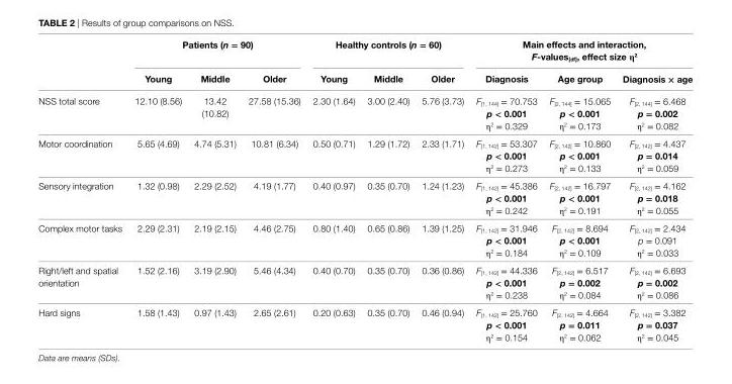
<table><thead><tr><td rowspan="2"></td><td colspan="3">Patients (n = 90)</td><td colspan="3">healthy controls (n = 60)</td><td colspan="3">Main effects and interaction, F-values<sub>[df]</sub>, effect size η<sup>2</sup></td></tr><tr><td>Young</td><td>Middle</td><td>Older</td><td>Young</td><td>Middle</td><td>Older</td><td>Diagnosis</td><td>age group</td><td>Diagnosis × age</td></tr></thead><tbody><tr><td>NSS total score</td><td>12.10 (8.56)</td><td>13.42 (10.82)</td><td>27.58 (15.36)</td><td>2.30 (1.64)</td><td>3.00 (2.40)</td><td>5.76 (3.73)</td><td>F<sub>[1, 144]</sub> = 70.753 p &lt; 0.001 η<sup>2</sup> = 0.329</td><td>F<sub>[2, 144]</sub> = 15.065 p &lt; 0.001 η<sup>2</sup> = 0.173</td><td>F<sub>[2, 144]</sub> = 6.468 p = 0.002 η<sup>2</sup> = 0.082</td></tr><tr><td>Motor coordination</td><td>5.65 (4.69)</td><td>4.74 (5.31)</td><td>10.81 (6.34)</td><td>0.50 (0.71)</td><td>1.29 (1.72)</td><td>2.33 (1.71)</td><td>F<sub>[1, 142]</sub> = 53.307 p &lt; 0.001 η<sup>2</sup> = 0.273</td><td>F<sub>[2, 142]</sub> = 10.860 p &lt; 0.001 η<sup>2</sup> = 0.133</td><td>F<sub>[2, 142]</sub> = 4.437 p = 0.014 η<sup>2</sup> = 0.059</td></tr><tr><td>Sensory integration</td><td>1.32 (0.98)</td><td>2.29 (2.52)</td><td>4.19 (1.77)</td><td>0.40 (0.97)</td><td>0.35 (0.70)</td><td>1.24 (1.23)</td><td>F<sub>[1, 142]</sub> = 45.386 p &lt; 0.001 η<sup>2</sup> = 0.242</td><td>F<sub>[2, 142]</sub> = 16.797 p &lt; 0.001 η<sup>2</sup> = 0.191</td><td>F<sub>[2, 142]</sub> = 4.162 p = 0.018 η<sup>2</sup> = 0.055</td></tr><tr><td>Complex motor tasks</td><td>2.29 (2.31)</td><td>2.19 (2.15)</td><td>4.46 (2.75)</td><td>0.80 (1.40)</td><td>0.65 (0.86)</td><td>1.39 (1.25)</td><td>F<sub>[1, 142]</sub> = 31.946 p &lt; 0.001 η<sup>2</sup> = 0.184</td><td>F<sub>[2, 142]</sub> = 8.694 p &lt; 0.001 η<sup>2</sup> = 0.109</td><td>F<sub>[2, 142]</sub> = 2.434 p = 0.091 η<sup>2</sup> = 0.033</td></tr><tr><td>Right/left and spatial orientation</td><td>1.52 (2.16)</td><td>3.19 (2.90)</td><td>5.46 (4.34)</td><td>0.40 (0.70)</td><td>0.35 (0.70)</td><td>0.36 (0.86)</td><td>F<sub>[1, 142]</sub> = 44.336 p &lt; 0.001 η<sup>2</sup> = 0.238</td><td>F<sub>[2, 142]</sub> = 6.517 p = 0.002 η<sup>2</sup> = 0.084</td><td>F<sub>[2, 142]</sub> = 6.693 p = 0.002 η<sup>2</sup> = 0.086</td></tr><tr><td>Hard signs</td><td>1.58 (1.43)</td><td>0.97 (1.43)</td><td>2.65 (2.61)</td><td>0.20 (0.63)</td><td>0.35 (0.70)</td><td>0.46 (0.94)</td><td>F<sub>[1, 142]</sub> = 25.760 p &lt; 0.001 η<sup>2</sup> = 0.154</td><td>F<sub>[2, 142]</sub> = 4.664 p = 0.011 η<sup>2</sup> = 0.062</td><td>F<sub>[2, 142]</sub> = 3.382 p = 0.037 η<sup>2</sup> = 0.045</td></tr></tbody></table>